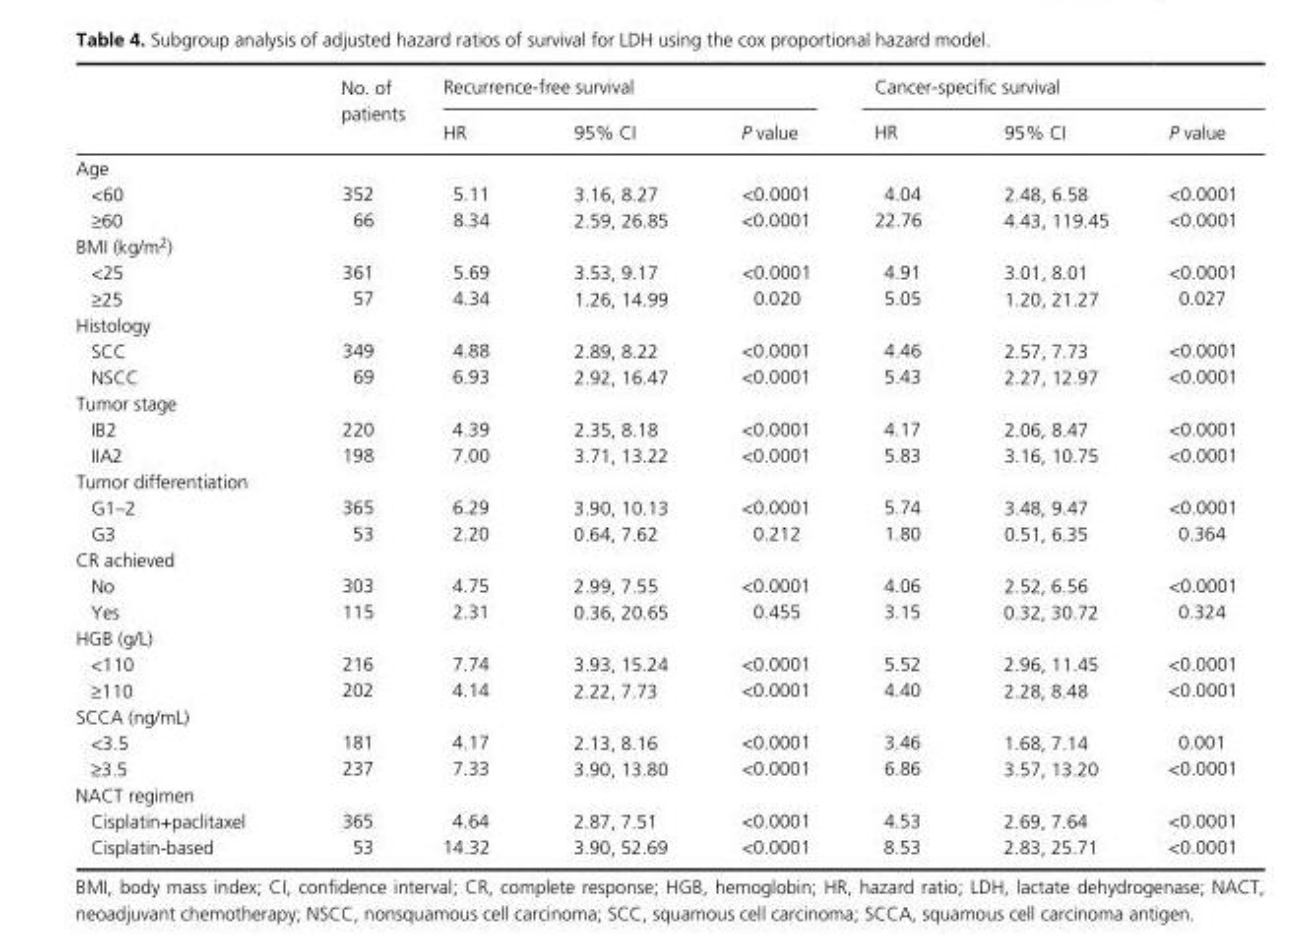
<table><thead><tr><td rowspan="2"></td><td rowspan="2">No. of patients</td><td colspan="3">Recurrence- free survival</td><td colspan="3">Cancer- specific survival</td></tr><tr><td>HR</td><td>95% CI</td><td>P value</td><td>HR</td><td>95% CI</td><td>P value</td></tr></thead><tbody><tr><td colspan="8">Age</td></tr><tr><td>&lt;60</td><td>352</td><td>5.11</td><td>3.16, 8.27</td><td>&lt;0.0001</td><td>4.04</td><td>2.48, 6.58</td><td>&lt;0.0001</td></tr><tr><td>≥60</td><td>66</td><td>8.34</td><td>2.59, 26.85</td><td>&lt;0.0001</td><td>22.76</td><td>4.43, 119.45</td><td>&lt;0.0001</td></tr><tr><td colspan="8">BMI (kg/m<sup>2</sup>)</td></tr><tr><td>&lt;25</td><td>361</td><td>5.69</td><td>3.53, 9.17</td><td>&lt;0.0001</td><td>4.91</td><td>3.01, 8.01</td><td>&lt;0.0001</td></tr><tr><td>≥25</td><td>57</td><td>4.34</td><td>1.26, 14.99</td><td>0.020</td><td>5.05</td><td>1.20, 21.27</td><td>0.027</td></tr><tr><td colspan="8">Histology</td></tr><tr><td>SCC</td><td>349</td><td>4.88</td><td>2.89, 8.22</td><td>&lt;0.0001</td><td>4.46</td><td>2.57, 7.73</td><td>&lt;0.0001</td></tr><tr><td>NSCC</td><td>69</td><td>6.93</td><td>2.92, 16.47</td><td>&lt;0.0001</td><td>5.43</td><td>2.27, 12.97</td><td>&lt;0.0001</td></tr><tr><td colspan="8">Tumor stage</td></tr><tr><td>IB2</td><td>220</td><td>4.39</td><td>2.35, 8.18</td><td>&lt;0.0001</td><td>4.17</td><td>2.06, 8.47</td><td>&lt;0.0001</td></tr><tr><td>IIA2</td><td>198</td><td>7.00</td><td>3.71, 13.22</td><td>&lt;0.0001</td><td>5.83</td><td>3.16, 10.75</td><td>&lt;0.0001</td></tr><tr><td colspan="8">Tumor differentiation</td></tr><tr><td>G1–2</td><td>365</td><td>6.29</td><td>3.90, 10.13</td><td>&lt;0.0001</td><td>5.74</td><td>3.48, 9.47</td><td>&lt;0.0001</td></tr><tr><td>G3</td><td>53</td><td>2.20</td><td>0.64, 7.62</td><td>0.212</td><td>1.80</td><td>0.51, 6.35</td><td>0.364</td></tr><tr><td colspan="8">CR achieved</td></tr><tr><td>No</td><td>303</td><td>4.75</td><td>2.99, 7.55</td><td>&lt;0.0001</td><td>4.06</td><td>2.52, 6.56</td><td>&lt;0.0001</td></tr><tr><td>Yes</td><td>115</td><td>2.31</td><td>0.36, 20.65</td><td>0.455</td><td>3.15</td><td>0.32, 30.72</td><td>0.324</td></tr><tr><td colspan="8">HGB (g/L)</td></tr><tr><td>&lt;110</td><td>216</td><td>7.74</td><td>3.93, 15.24</td><td>&lt;0.0001</td><td>5.52</td><td>2.96, 11.45</td><td>&lt;0.0001</td></tr><tr><td>≥110</td><td>202</td><td>4.14</td><td>2.22, 7.73</td><td>&lt;0.0001</td><td>4.40</td><td>2.28, 8.48</td><td>&lt;0.0001</td></tr><tr><td colspan="8">SCCA (ng/mL)</td></tr><tr><td>&lt;3.5</td><td>181</td><td>4.17</td><td>2.13, 8.16</td><td>&lt;0.0001</td><td>3.46</td><td>1.68, 7.14</td><td>0.001</td></tr><tr><td>≥3.5</td><td>237</td><td>7.33</td><td>3.90, 13.80</td><td>&lt;0.0001</td><td>6.86</td><td>3.57, 13.20</td><td>&lt;0.0001</td></tr><tr><td colspan="8">NACT regimen</td></tr><tr><td>Cisplatin+paclitaxel</td><td>365</td><td>4.64</td><td>2.87, 7.51</td><td>&lt;0.0001</td><td>4.53</td><td>2.69, 7.64</td><td>&lt;0.0001</td></tr><tr><td>Cisplatin- based</td><td>53</td><td>14.32</td><td>3.90, 52.69</td><td>&lt;0.0001</td><td>8.53</td><td>2.83, 25.71</td><td>&lt;0.0001</td></tr></tbody></table>